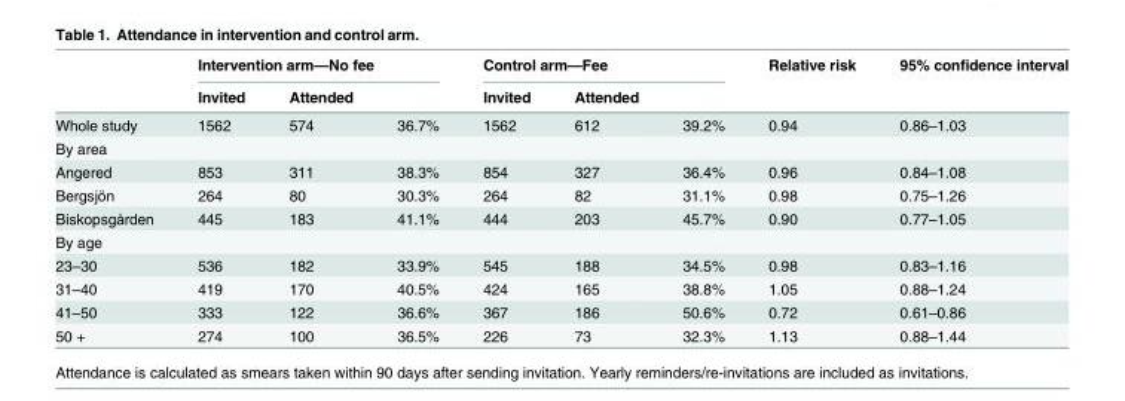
<table><thead><tr><td rowspan="2"></td><td colspan="3">Intervention arm—No fee</td><td colspan="3">Control arm—Fee</td><td rowspan="2">Relative risk</td><td rowspan="2">95% confidence interval</td></tr><tr><td>Invited</td><td>Attended</td><td></td><td>Invited</td><td>Attended</td><td></td></tr></thead><tbody><tr><td>Whole study</td><td>1562</td><td>574</td><td>36.7%</td><td>1562</td><td>612</td><td>39.2%</td><td>0.94</td><td>0.86–1.03</td></tr><tr><td colspan="9">By area</td></tr><tr><td>Angered</td><td>853</td><td>311</td><td>38.3%</td><td>854</td><td>327</td><td>36.4%</td><td>0.96</td><td>0.84–1.08</td></tr><tr><td>Bergsjön</td><td>264</td><td>80</td><td>30.3%</td><td>264</td><td>82</td><td>31.1%</td><td>0.98</td><td>0.75–1.26</td></tr><tr><td>Biskopsgården</td><td>445</td><td>183</td><td>41.1%</td><td>444</td><td>203</td><td>45.7%</td><td>0.90</td><td>0.77–1.05</td></tr><tr><td colspan="9">By age</td></tr><tr><td>23–30</td><td>536</td><td>182</td><td>33.9%</td><td>545</td><td>188</td><td>34.5%</td><td>0.98</td><td>0.83–1.16</td></tr><tr><td>31–40</td><td>419</td><td>170</td><td>40.5%</td><td>424</td><td>165</td><td>38.8%</td><td>1.05</td><td>0.88–1.24</td></tr><tr><td>41–50</td><td>333</td><td>122</td><td>36.6%</td><td>367</td><td>186</td><td>50.6%</td><td>0.72</td><td>0.61–0.86</td></tr><tr><td>50 +</td><td>274</td><td>100</td><td>36.5%</td><td>226</td><td>73</td><td>32.3%</td><td>1.13</td><td>0.88–1.44</td></tr></tbody></table>